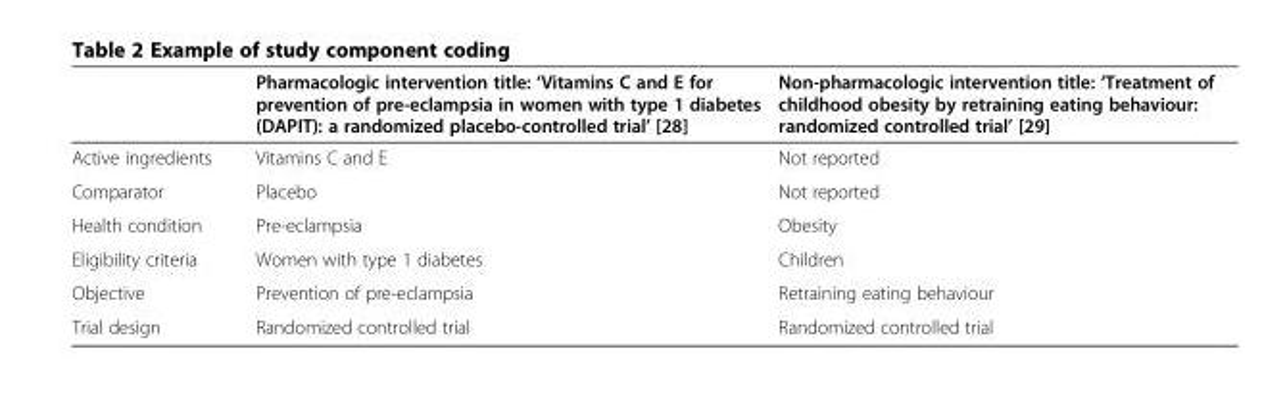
<table><thead><tr><td></td><td>Pharmacologic intervention title: ‘Vitamins C and E for prevention of pre-eclampsia in women with type 1 diabetes (DAPIT): a randomized placebo-controlled trial’ [28]</td><td>Non-pharmacologic intervention title: ‘Treatment of childhood obesity by retraining eating behaviour: randomized controlled trial’ [29]</td></tr></thead><tbody><tr><td>Active ingredients</td><td>Vitamins C and E</td><td>Not reported</td></tr><tr><td>Comparator</td><td>Placebo</td><td>Not reported</td></tr><tr><td>Health condition</td><td>Pre-eclampsia</td><td>Obesity</td></tr><tr><td>Eligibility criteria</td><td>Women with type 1 diabetes</td><td>Children</td></tr><tr><td>Objective</td><td>Prevention of pre-eclampsia</td><td>Retraining eating behaviour</td></tr><tr><td>Trial design</td><td>Randomized controlled trial</td><td>Randomized controlled trial</td></tr></tbody></table>